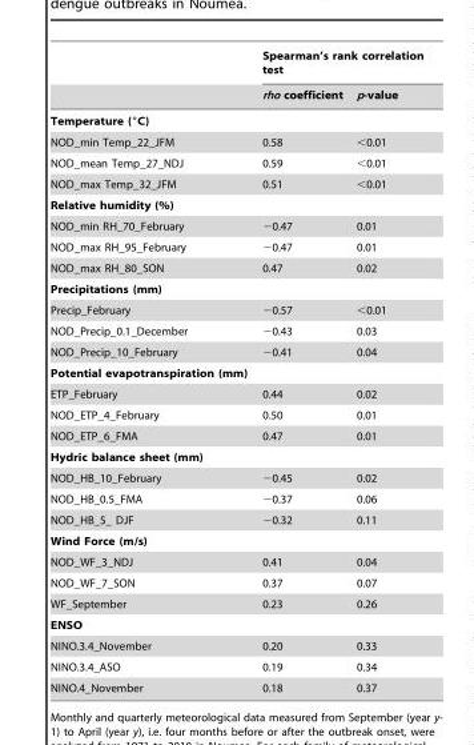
<table><thead><tr><td rowspan="2"></td><td colspan="2">Spearman’s rank correlation test</td></tr><tr><td>rho coefficient</td><td>p-value</td></tr></thead><tbody><tr><td colspan="3">Temperature (°C)</td></tr><tr><td>NOD_min Temp_22_JFM</td><td>0.58</td><td>&lt;0.01</td></tr><tr><td>NOD_mean Temp_27_NDJ</td><td>0.59</td><td>&lt;0.01</td></tr><tr><td>NOD_max Temp_32_JFM</td><td>0.51</td><td>&lt;0.01</td></tr><tr><td colspan="3">Relative humidity (%)</td></tr><tr><td>NOD_min RH_70_February</td><td>−0.47</td><td>0.01</td></tr><tr><td>NOD_max RH_95_February</td><td>−0.47</td><td>0.01</td></tr><tr><td>NOD_max RH_80_SON</td><td>0.47</td><td>0.02</td></tr><tr><td colspan="3">Precipitations (mm)</td></tr><tr><td>Precip_February</td><td>−0.57</td><td>&lt;0.01</td></tr><tr><td>NOD_Precip_0.1_December</td><td>−0.43</td><td>0.03</td></tr><tr><td>NOD_Precip_10_February</td><td>−0.41</td><td>0.04</td></tr><tr><td colspan="3">Potential evapotranspiration (mm)</td></tr><tr><td>ETP_February</td><td>0.44</td><td>0.02</td></tr><tr><td>NOD_ETP_4_February</td><td>0.50</td><td>0.01</td></tr><tr><td>NOD_ETP_6_FMA</td><td>0.47</td><td>0.01</td></tr><tr><td colspan="3">Hydric balance sheet (mm)</td></tr><tr><td>NOD_HB_10_February</td><td>−0.45</td><td>0.02</td></tr><tr><td>NOD_HB_0.5_FMA</td><td>−0.37</td><td>0.06</td></tr><tr><td>NOD_HB_5_ DJF</td><td>−0.32</td><td>0.11</td></tr><tr><td colspan="3">Wind Force (m/s)</td></tr><tr><td>NOD_WF_3_NDJ</td><td>0.41</td><td>0.04</td></tr><tr><td>NOD_WF_7_SON</td><td>0.37</td><td>0.07</td></tr><tr><td>WF_September</td><td>0.23</td><td>0.26</td></tr><tr><td colspan="3">ENSO</td></tr><tr><td>NINO.3.4_November</td><td>0.20</td><td>0.33</td></tr><tr><td>NINO.3.4_ASO</td><td>0.19</td><td>0.34</td></tr><tr><td>NINO.4_November</td><td>0.18</td><td>0.37</td></tr></tbody></table>